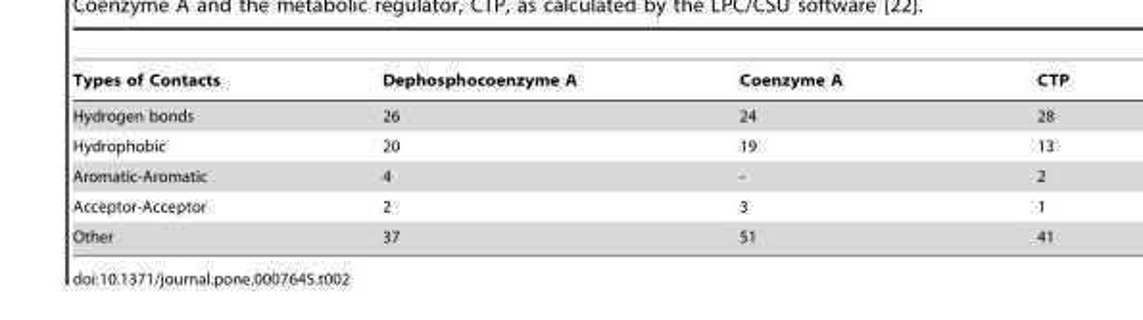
<table><thead><tr><td>Types of Contacts</td><td>Dephosphocoenzyme A</td><td>Coenzyme A</td><td>CTP</td></tr></thead><tbody><tr><td>Hydrogen bonds</td><td>26</td><td>24</td><td>28</td></tr><tr><td>Hydrophobic</td><td>20</td><td>19</td><td>13</td></tr><tr><td>Aromatic-Aromatic</td><td>4</td><td>-</td><td>2</td></tr><tr><td>Acceptor-Acceptor</td><td>2</td><td>3</td><td>1</td></tr><tr><td>Other</td><td>37</td><td>51</td><td>41</td></tr></tbody></table>